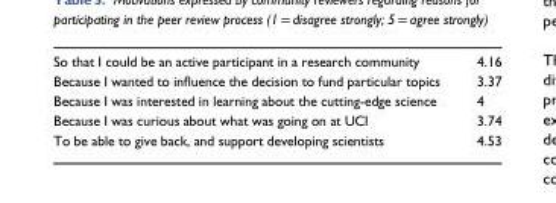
<table><tbody><tr><td>So that I could be an active participant in a research community</td><td>4.16</td></tr><tr><td>Because I wanted to influence the decision to fund particular topics</td><td>3.37</td></tr><tr><td>Because I was interested in learning about the cutting-edge science</td><td>4</td></tr><tr><td>Because I was curious about what was going on at UCI</td><td>3.74</td></tr><tr><td>To be able to give back, and support developing scientists</td><td>4.53</td></tr></tbody></table>